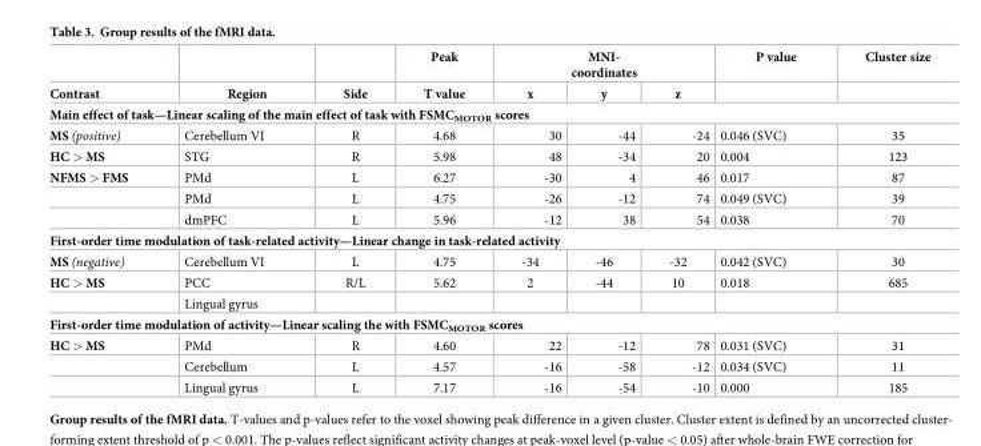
<table><thead><tr><td rowspan="2">Contrast</td><td rowspan="2">Region</td><td rowspan="2">Side</td><td rowspan="2">Peak T value</td><td colspan="3">MNI- coordinates</td><td rowspan="2">P value</td><td rowspan="2">Cluster size</td></tr><tr><td>x</td><td>y</td><td>z</td></tr></thead><tbody><tr><td colspan="9">Main effect of task—Linear scaling of the main effect of task with FSMC<sub>MOTOR</sub> scores</td></tr><tr><td>MS (positive)</td><td>Cerebellum VI</td><td>R</td><td>4.68</td><td>30</td><td>-44</td><td>-24</td><td>0.046 (SVC)</td><td>35</td></tr><tr><td>HC &gt; MS</td><td>STG</td><td>R</td><td>5.98</td><td>48</td><td>-34</td><td>20</td><td>0.004</td><td>123</td></tr><tr><td rowspan="3">NFMS &gt; FMS</td><td>PMd</td><td>L</td><td>6.27</td><td>-30</td><td>4</td><td>46</td><td>0.017</td><td>87</td></tr><tr><td>PMd</td><td>L</td><td>4.75</td><td>-26</td><td>-12</td><td>74</td><td>0.049 (SVC)</td><td>39</td></tr><tr><td>dmPFC</td><td>L</td><td>5.96</td><td>-12</td><td>38</td><td>54</td><td>0.038</td><td>70</td></tr><tr><td colspan="9">First-order time modulation of task-related activity—Linear change in task-related activity</td></tr><tr><td>MS (negative)</td><td>Cerebellum VI</td><td>L</td><td>4.75</td><td>-34</td><td>-46</td><td>-32</td><td>0.042 (SVC)</td><td>30</td></tr><tr><td rowspan="2">HC &gt; MS</td><td>PCC</td><td>R/L</td><td>5.62</td><td>2</td><td>-44</td><td>10</td><td>0.018</td><td>685</td></tr><tr><td>Lingual gyrus</td><td></td><td></td><td></td><td></td><td></td><td></td><td></td></tr><tr><td colspan="9">First-order time modulation of activity—Linear scaling the with FSMC<sub>MOTOR</sub> scores</td></tr><tr><td rowspan="3">HC &gt; MS</td><td>PMd</td><td>R</td><td>4.60</td><td>22</td><td>-12</td><td>78</td><td>0.031 (SVC)</td><td>31</td></tr><tr><td>Cerebellum</td><td>L</td><td>4.57</td><td>-16</td><td>-58</td><td>-12</td><td>0.034 (SVC)</td><td>11</td></tr><tr><td>Lingual gyrus</td><td>L</td><td>7.17</td><td>-16</td><td>-54</td><td>-10</td><td>0.000</td><td>185</td></tr></tbody></table>